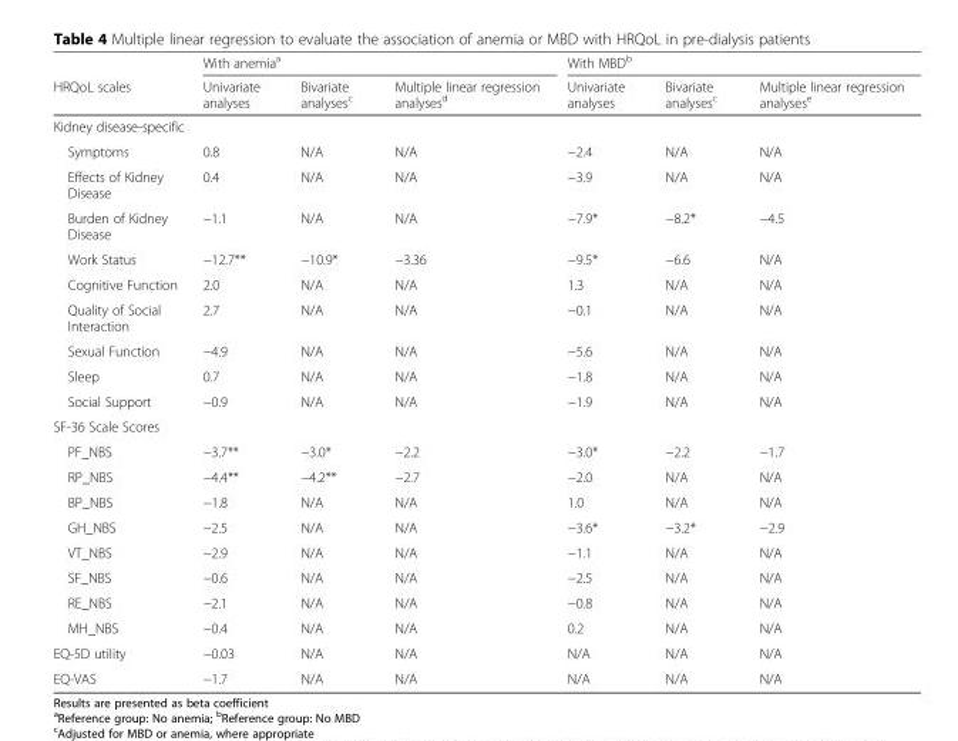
<table><thead><tr><td rowspan="2">HRQoL scales</td><td colspan="3">With anemia<sup>a</sup></td><td colspan="3">With MBD<sup>b</sup></td></tr><tr><td>Univariate analyses</td><td>Bivariate analyses<sup>c</sup></td><td>Multiple linear regression analyses<sup>d</sup></td><td>Univariate analyses</td><td>Bivariate analyses<sup>c</sup></td><td>Multiple linear regression analyses<sup>e</sup></td></tr></thead><tbody><tr><td colspan="7">Kidney disease-specific</td></tr><tr><td>Symptoms</td><td>0.8</td><td>N/A</td><td>N/A</td><td>−2.4</td><td>N/A</td><td>N/A</td></tr><tr><td>Effects of Kidney Disease</td><td>0.4</td><td>N/A</td><td>N/A</td><td>−3.9</td><td>N/A</td><td>N/A</td></tr><tr><td>Burden of Kidney Disease</td><td>−1.1</td><td>N/A</td><td>N/A</td><td>−7.9*</td><td>−8.2*</td><td>−4.5</td></tr><tr><td>Work Status</td><td>−12.7**</td><td>−10.9*</td><td>−3.36</td><td>−9.5*</td><td>−6.6</td><td>N/A</td></tr><tr><td>Cognitive Function</td><td>2.0</td><td>N/A</td><td>N/A</td><td>1.3</td><td>N/A</td><td>N/A</td></tr><tr><td>Quality of Social Interaction</td><td>2.7</td><td>N/A</td><td>N/A</td><td>−0.1</td><td>N/A</td><td>N/A</td></tr><tr><td>Sexual Function</td><td>−4.9</td><td>N/A</td><td>N/A</td><td>−5.6</td><td>N/A</td><td>N/A</td></tr><tr><td>Sleep</td><td>0.7</td><td>N/A</td><td>N/A</td><td>−1.8</td><td>N/A</td><td>N/A</td></tr><tr><td>Social Support</td><td>−0.9</td><td>N/A</td><td>N/A</td><td>−1.9</td><td>N/A</td><td>N/A</td></tr><tr><td colspan="7">SF-36 Scale Scores</td></tr><tr><td>PF_NBS</td><td>−3.7**</td><td>−3.0*</td><td>−2.2</td><td>−3.0*</td><td>−2.2</td><td>−1.7</td></tr><tr><td>RP_NBS</td><td>−4.4**</td><td>−4.2**</td><td>−2.7</td><td>−2.0</td><td>N/A</td><td>N/A</td></tr><tr><td>BP_NBS</td><td>−1.8</td><td>N/A</td><td>N/A</td><td>1.0</td><td>N/A</td><td>N/A</td></tr><tr><td>GH_NBS</td><td>−2.5</td><td>N/A</td><td>N/A</td><td>−3.6*</td><td>−3.2*</td><td>−2.9</td></tr><tr><td>VT_NBS</td><td>−2.9</td><td>N/A</td><td>N/A</td><td>−1.1</td><td>N/A</td><td>N/A</td></tr><tr><td>SF_NBS</td><td>−0.6</td><td>N/A</td><td>N/A</td><td>−2.5</td><td>N/A</td><td>N/A</td></tr><tr><td>RE_NBS</td><td>−2.1</td><td>N/A</td><td>N/A</td><td>−0.8</td><td>N/A</td><td>N/A</td></tr><tr><td>MH_NBS</td><td>−0.4</td><td>N/A</td><td>N/A</td><td>0.2</td><td>N/A</td><td>N/A</td></tr><tr><td>EQ-5D utility</td><td>−0.03</td><td>N/A</td><td>N/A</td><td>N/A</td><td>N/A</td><td>N/A</td></tr><tr><td>EQ-VAS</td><td>−1.7</td><td>N/A</td><td>N/A</td><td>N/A</td><td>N/A</td><td>N/A</td></tr></tbody></table>